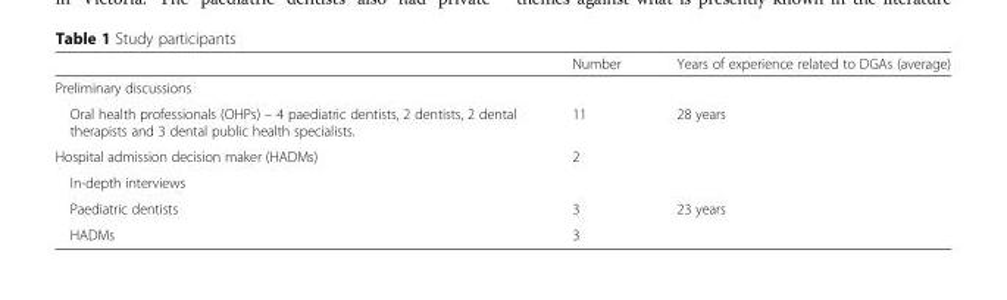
<table><thead><tr><td></td><td>Number</td><td>Years of experience related to DGAs (average)</td></tr></thead><tbody><tr><td colspan="3">Preliminary discussions</td></tr><tr><td>Oral health professionals (OHPs) – 4 paediatric dentists, 2 dentists, 2 dental therapists and 3 dental public health specialists.</td><td>11</td><td rowspan="2">28 years</td></tr><tr><td>Hospital admission decision maker (HADMs)</td><td>2</td></tr><tr><td colspan="3">In-depth interviews</td></tr><tr><td>Paediatric dentists</td><td>3</td><td rowspan="2">23 years</td></tr><tr><td>HADMs</td><td>3</td></tr></tbody></table>